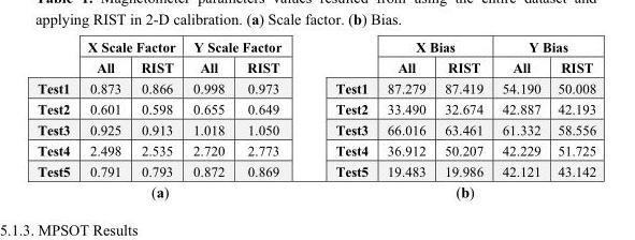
<table><thead><tr><td rowspan="2"></td><td colspan="2">X Scale Factor</td><td colspan="2">Y Scale Factor</td><td rowspan="2"></td><td colspan="2">X Bias</td><td colspan="2">Y Bias</td></tr><tr><td>All</td><td>RIST</td><td>All</td><td>RIST</td><td>All</td><td>RIST</td><td>All</td><td>RIST</td></tr></thead><tbody><tr><td>Test1</td><td>0.873</td><td>0.866</td><td>0.998</td><td>0.973</td><td>Test1</td><td>87.279</td><td>87.419</td><td>54.190</td><td>50.008</td></tr><tr><td>Test2</td><td>0.601</td><td>0.598</td><td>0.655</td><td>0.649</td><td>Test2</td><td>33.490</td><td>32.674</td><td>42.887</td><td>42.193</td></tr><tr><td>Test3</td><td>0.925</td><td>0.913</td><td>1.018</td><td>1.050</td><td>Test3</td><td>66.016</td><td>63.461</td><td>61.332</td><td>58.556</td></tr><tr><td>Test4</td><td>2.498</td><td>2.535</td><td>2.720</td><td>2.773</td><td>Test4</td><td>36.912</td><td>50.207</td><td>42.229</td><td>51.725</td></tr><tr><td>Test5</td><td>0.791</td><td>0.793</td><td>0.872</td><td>0.869</td><td>Test5</td><td>19.483</td><td>19.986</td><td>42.121</td><td>43.142</td></tr><tr><td colspan="5">(a)</td><td colspan="5">(b)</td></tr></tbody></table>